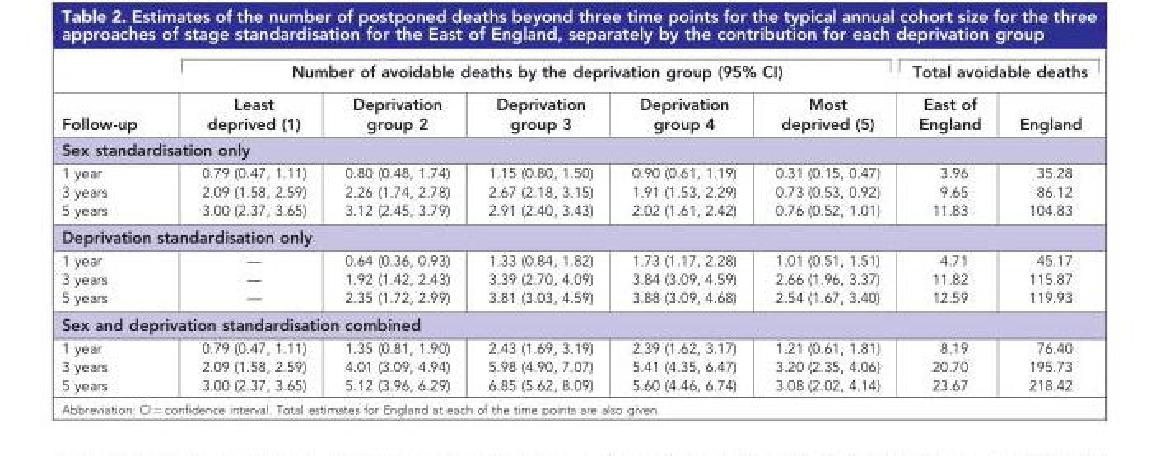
<table><thead><tr><td rowspan="2">Follow-up</td><td colspan="5">Number of avoidable deaths by the deprivation group (95% CI)</td><td colspan="2">Total avoidable deaths</td></tr><tr><td>Least deprived (1)</td><td>Deprivation group 2</td><td>Deprivation group 3</td><td>Deprivation group 4</td><td>Most deprived (5)</td><td>East of England</td><td>England</td></tr></thead><tbody><tr><td colspan="8">Sex standardisation only</td></tr><tr><td>1 year</td><td>0.79 (0.47, 1.11)</td><td>0.80 (0.48, 1.74)</td><td>1.15 (0.80, 1.50)</td><td>0.90 (0.61, 1.19)</td><td>0.31 (0.15, 0.47)</td><td>3.96</td><td>35.28</td></tr><tr><td>3 years</td><td>2.09 (1.58, 2.59)</td><td>2.26 (1.74, 2.78)</td><td>2.67 (2.18, 3.15)</td><td>1.91 (1.53, 2.29)</td><td>0.73 (0.53, 0.92)</td><td>9.65</td><td>86.12</td></tr><tr><td>5 years</td><td>3.00 (2.37, 3.65)</td><td>3.12 (2.45, 3.79)</td><td>2.91 (2.40, 3.43)</td><td>2.02 (1.61, 2.42)</td><td>0.76 (0.52, 1.01)</td><td>11.83</td><td>104.83</td></tr><tr><td colspan="8">Deprivation standardisation only</td></tr><tr><td>1 year</td><td>—</td><td>0.64 (0.36, 0.93)</td><td>1.33 (0.84, 1.82)</td><td>1.73 (1.17, 2.28)</td><td>1.01 (0.51, 1.51)</td><td>4.71</td><td>45.17</td></tr><tr><td>3 years</td><td>—</td><td>1.92 (1.42, 2.43)</td><td>3.39 (2.70, 4.09)</td><td>3.84 (3.09, 4.59)</td><td>2.66 (1.96, 3.37)</td><td>11.82</td><td>115.87</td></tr><tr><td>5 years</td><td>—</td><td>2.35 (1.72, 2.99)</td><td>3.81 (3.03, 4.59)</td><td>3.88 (3.09, 4.68)</td><td>2.54 (1.67, 3.40)</td><td>12.59</td><td>119.93</td></tr><tr><td colspan="8">Sex and deprivation standardisation combined</td></tr><tr><td>1 year</td><td>0.79 (0.47, 1.11)</td><td>1.35 (0.81, 1.90)</td><td>2.43 (1.69, 3.19)</td><td>2.39 (1.62, 3.17)</td><td>1.21 (0.61, 1.81)</td><td>8.19</td><td>76.40</td></tr><tr><td>3 years</td><td>2.09 (1.58, 2.59)</td><td>4.01 (3.09, 4.94)</td><td>5.98 (4.90, 7.07)</td><td>5.41 (4.35, 6.47)</td><td>3.20 (2.35, 4.06)</td><td>20.70</td><td>195.73</td></tr><tr><td>5 years</td><td>3.00 (2.37, 3.65)</td><td>5.12 (3.96, 6.29)</td><td>6.85 (5.62, 8.09)</td><td>5.60 (4.46, 6.74)</td><td>3.08 (2.02, 4.14)</td><td>23.67</td><td>218.42</td></tr></tbody></table>